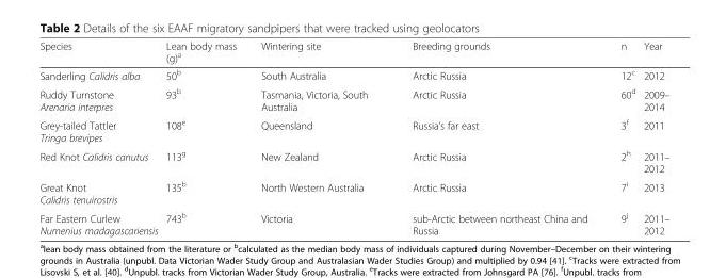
<table><thead><tr><td>Species</td><td>Lean body mass (g)<sup>a</sup></td><td>Wintering site</td><td>Breeding grounds</td><td>n</td><td>Year</td></tr></thead><tbody><tr><td>Sanderling Calidris alba</td><td>50<sup>b</sup></td><td>South Australia</td><td>Arctic Russia</td><td>12<sup>c</sup></td><td>2012</td></tr><tr><td>Ruddy Turnstone Arenaria interpres</td><td>93<sup>b</sup></td><td>Tasmania, Victoria, South Australia</td><td>Arctic Russia</td><td>60<sup>d</sup></td><td>2009– 2014</td></tr><tr><td>Grey-tailed Tattler Tringa brevipes</td><td>108<sup>e</sup></td><td>Queensland</td><td>Russia’s far east</td><td>3<sup>f</sup></td><td>2011</td></tr><tr><td>Red Knot Calidris canutus</td><td>113<sup>g</sup></td><td>New Zealand</td><td>Arctic Russia</td><td>2<sup>h</sup></td><td>2011– 2012</td></tr><tr><td>Great Knot Calidris tenuirostris</td><td>135<sup>b</sup></td><td>North Western Australia</td><td>Arctic Russia</td><td>7<sup>i</sup></td><td>2013</td></tr><tr><td>Far Eastern Curlew Numenius madagascariensis</td><td>743<sup>b</sup></td><td>Victoria</td><td>sub-Arctic between northeast China and Russia</td><td>9<sup>j</sup></td><td>2011– 2012</td></tr></tbody></table>